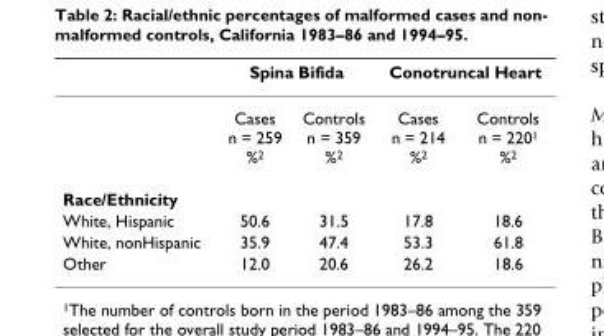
<table><thead><tr><td rowspan="2"></td><td colspan="2">Spina Bifida</td><td colspan="2">Conotruncal Heart</td></tr><tr><td>Cases n = 259 %<sup>2</sup></td><td>Controls n = 359 %<sup>2</sup></td><td>Cases n = 214 %<sup>2</sup></td><td>Controls n = 220<sup>1</sup> %<sup>2</sup></td></tr></thead><tbody><tr><td colspan="5">Race/Ethnicity</td></tr><tr><td>White, Hispanic</td><td>50.6</td><td>31.5</td><td>17.8</td><td>18.6</td></tr><tr><td>White, nonHispanic</td><td>35.9</td><td>47.4</td><td>53.3</td><td>61.8</td></tr><tr><td>Other</td><td>12.0</td><td>20.6</td><td>26.2</td><td>18.6</td></tr></tbody></table>